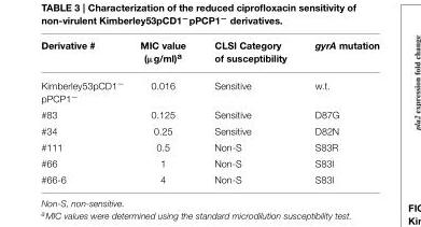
<table><thead><tr><td>Derivative #</td><td>MIC value (µg/ml)<sup>a</sup></td><td>CLSI Category of susceptibility</td><td>gyrA mutation</td></tr></thead><tbody><tr><td>Kimberley53pCD1<sup>−</sup> pPCP1<sup>−</sup></td><td>0.016</td><td>Sensitive</td><td>w.t.</td></tr><tr><td>#83</td><td>0.125</td><td>Sensitive</td><td>D87G</td></tr><tr><td>#34</td><td>0.25</td><td>Sensitive</td><td>D82N</td></tr><tr><td>#111</td><td>0.5</td><td>Non-S</td><td>S83R</td></tr><tr><td>#66</td><td>1</td><td>Non-S</td><td>S83I</td></tr><tr><td>#66-6</td><td>4</td><td>Non-S</td><td>S83I</td></tr></tbody></table>